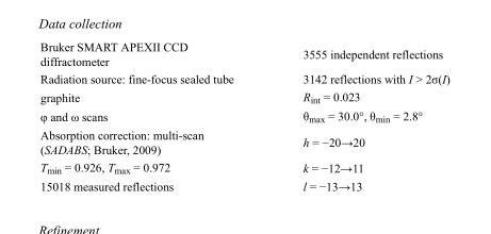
<table><tbody><tr><td>Bruker SMART APEXII CCD diffractometer</td><td>3555 independent reflections</td></tr><tr><td>Radiation source: fine-focus sealed tube</td><td>3142 reflections with I &gt; 2σ(I)</td></tr><tr><td>graphite</td><td>R<sub>int</sub> = 0.023</td></tr><tr><td>φ and ω scans</td><td>θ<sub>max</sub> = 30.0°, θ<sub>min</sub> = 2.8°</td></tr><tr><td>Absorption correction: multi-scan (SADABS; Bruker, 2009)</td><td>h = −20→20</td></tr><tr><td>T<sub>min</sub> = 0.926, T<sub>max</sub> = 0.972</td><td>k = −12→11</td></tr><tr><td>15018 measured reflections</td><td>l = −13→13</td></tr></tbody></table>